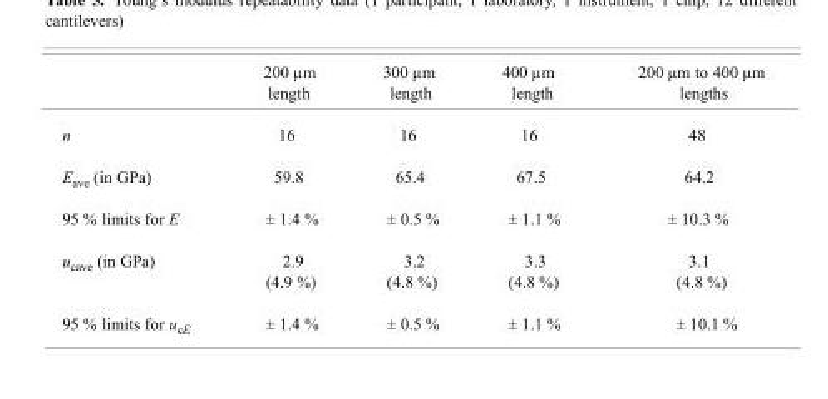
<table><thead><tr><td></td><td>200 μm length</td><td>300 μm length</td><td>400 μm length</td><td>200 μm to 400 μm lengths</td></tr></thead><tbody><tr><td>n</td><td>16</td><td>16</td><td>16</td><td>48</td></tr><tr><td>E<sub>ave</sub> (in GPa)</td><td>59.8</td><td>65.4</td><td>67.5</td><td>64.2</td></tr><tr><td>95 % limits for E</td><td>± 1.4 %</td><td>± 0.5 %</td><td>± 1.1 %</td><td>± 10.3 %</td></tr><tr><td>u<sub>cave</sub> (in GPa)</td><td>2.9 (4.9 %)</td><td>3.2 (4.8 %)</td><td>3.3 (4.8 %)</td><td>3.1 (4.8 %)</td></tr><tr><td>95 % limits for u<sub>cE</sub></td><td>± 1.4 %</td><td>± 0.5 %</td><td>± 1.1 %</td><td>± 10.1 %</td></tr></tbody></table>